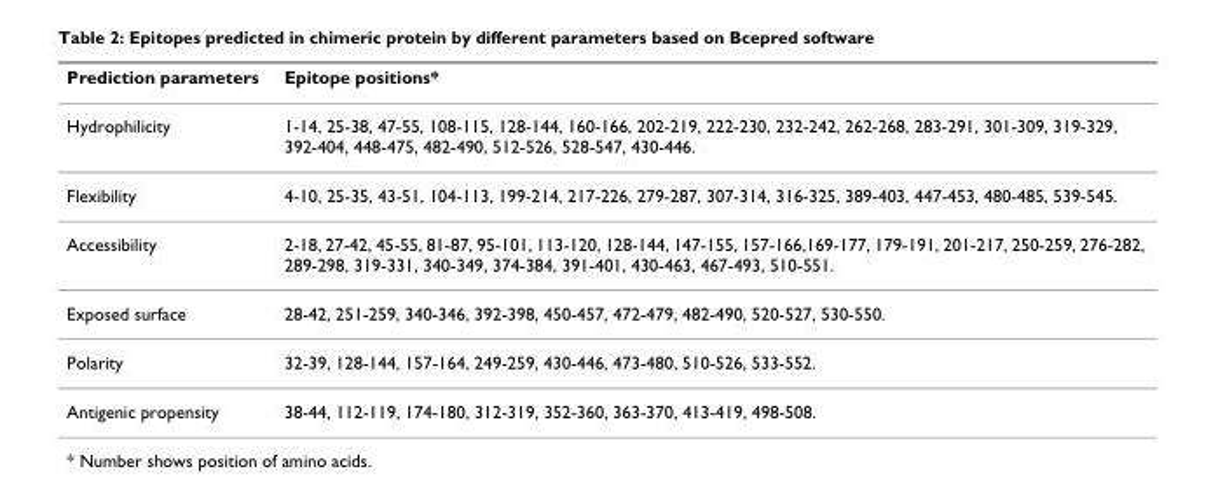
<table><thead><tr><td>Prediction parameters</td><td>Epitope positions*</td></tr></thead><tbody><tr><td>Hydrophilicity</td><td>1-14, 25-38, 47-55, 108-115, 128-144, 160-166, 202-219, 222-230, 232-242, 262-268, 283-291, 301-309, 319-329, 392-404, 448-475, 482-490, 512-526, 528-547, 430-446.</td></tr><tr><td>Flexibility</td><td>4-10, 25-35, 43-51, 104-113, 199-214, 217-226, 279-287, 307-314, 316-325, 389-403, 447-453, 480-485, 539-545.</td></tr><tr><td>Accessibility</td><td>2-18, 27-42, 45-55, 81-87, 95-101, 113-120, 128-144, 147-155, 157-166,169-177, 179-191, 201-217, 250-259, 276-282, 289-298, 319-331, 340-349, 374-384, 391-401, 430-463, 467-493, 510-551.</td></tr><tr><td>Exposed surface</td><td>28-42, 251-259, 340-346, 392-398, 450-457, 472-479, 482-490, 520-527, 530-550.</td></tr><tr><td>Polarity</td><td>32-39, 128-144, 157-164, 249-259, 430-446, 473-480, 510-526, 533-552.</td></tr><tr><td>Antigenic propensity</td><td>38-44, 112-119, 174-180, 312-319, 352-360, 363-370, 413-419, 498-508.</td></tr></tbody></table>